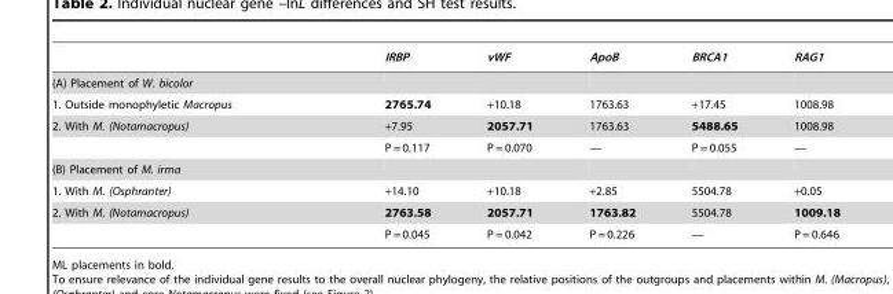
<table><thead><tr><td></td><td>IRBP</td><td>vWF</td><td>ApoB</td><td>BRCA1</td><td>RAG1</td></tr></thead><tbody><tr><td colspan="6">(A) Placement of W. bicolor</td></tr><tr><td>1. Outside monophyletic Macropus</td><td>2765.74</td><td>+10.18</td><td>1763.63</td><td>+17.45</td><td>1008.98</td></tr><tr><td rowspan="2">2. With M. (Notamacropus)</td><td>+7.95</td><td>2057.71</td><td>1763.63</td><td>5488.65</td><td>1008.98</td></tr><tr><td>P = 0.117</td><td>P = 0.070</td><td>—</td><td>P = 0.055</td><td>—</td></tr><tr><td colspan="6">(B) Placement of M. irma</td></tr><tr><td>1. With M. (Osphranter)</td><td>+14.10</td><td>+10.18</td><td>+2.85</td><td>5504.78</td><td>+0.05</td></tr><tr><td rowspan="2">2. With M. (Notamacropus)</td><td>2763.58</td><td>2057.71</td><td>1763.82</td><td>5504.78</td><td>1009.18</td></tr><tr><td>P = 0.045</td><td>P = 0.042</td><td>P = 0.226</td><td>—</td><td>P = 0.646</td></tr></tbody></table>